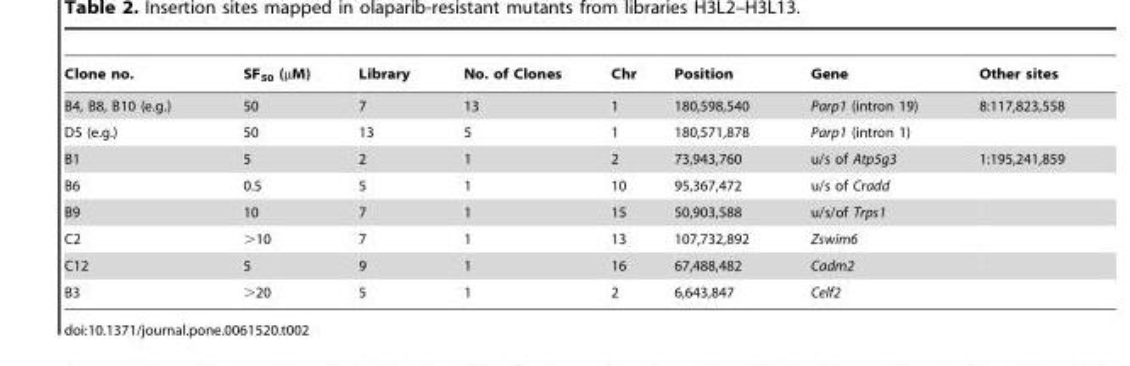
<table><thead><tr><td>Clone no.</td><td>SF<sub>50</sub> (µM)</td><td>Library</td><td>No. of Clones</td><td>Chr</td><td>Position</td><td>Gene</td><td>Other sites</td></tr></thead><tbody><tr><td>B4, B8, B10 (e.g.)</td><td>50</td><td>7</td><td>13</td><td>1</td><td>180,598,540</td><td>Parp1 (intron 19)</td><td>8:117,823,558</td></tr><tr><td>D5 (e.g.)</td><td>50</td><td>13</td><td>5</td><td>1</td><td>180,571,878</td><td>Parp1 (intron 1)</td><td></td></tr><tr><td>B1</td><td>5</td><td>2</td><td>1</td><td>2</td><td>73,943,760</td><td>u/s of Atp5g3</td><td>1:195,241,859</td></tr><tr><td>B6</td><td>0.5</td><td>5</td><td>1</td><td>10</td><td>95,367,472</td><td>u/s of Cradd</td><td></td></tr><tr><td>B9</td><td>10</td><td>7</td><td>1</td><td>15</td><td>50,903,588</td><td>u/s/of Trps1</td><td></td></tr><tr><td>C2</td><td>&gt;10</td><td>7</td><td>1</td><td>13</td><td>107,732,892</td><td>Zswim6</td><td></td></tr><tr><td>C12</td><td>5</td><td>9</td><td>1</td><td>16</td><td>67,488,482</td><td>Cadm2</td><td></td></tr><tr><td>B3</td><td>&gt;20</td><td>5</td><td>1</td><td>2</td><td>6,643,847</td><td>Celf2</td><td></td></tr></tbody></table>